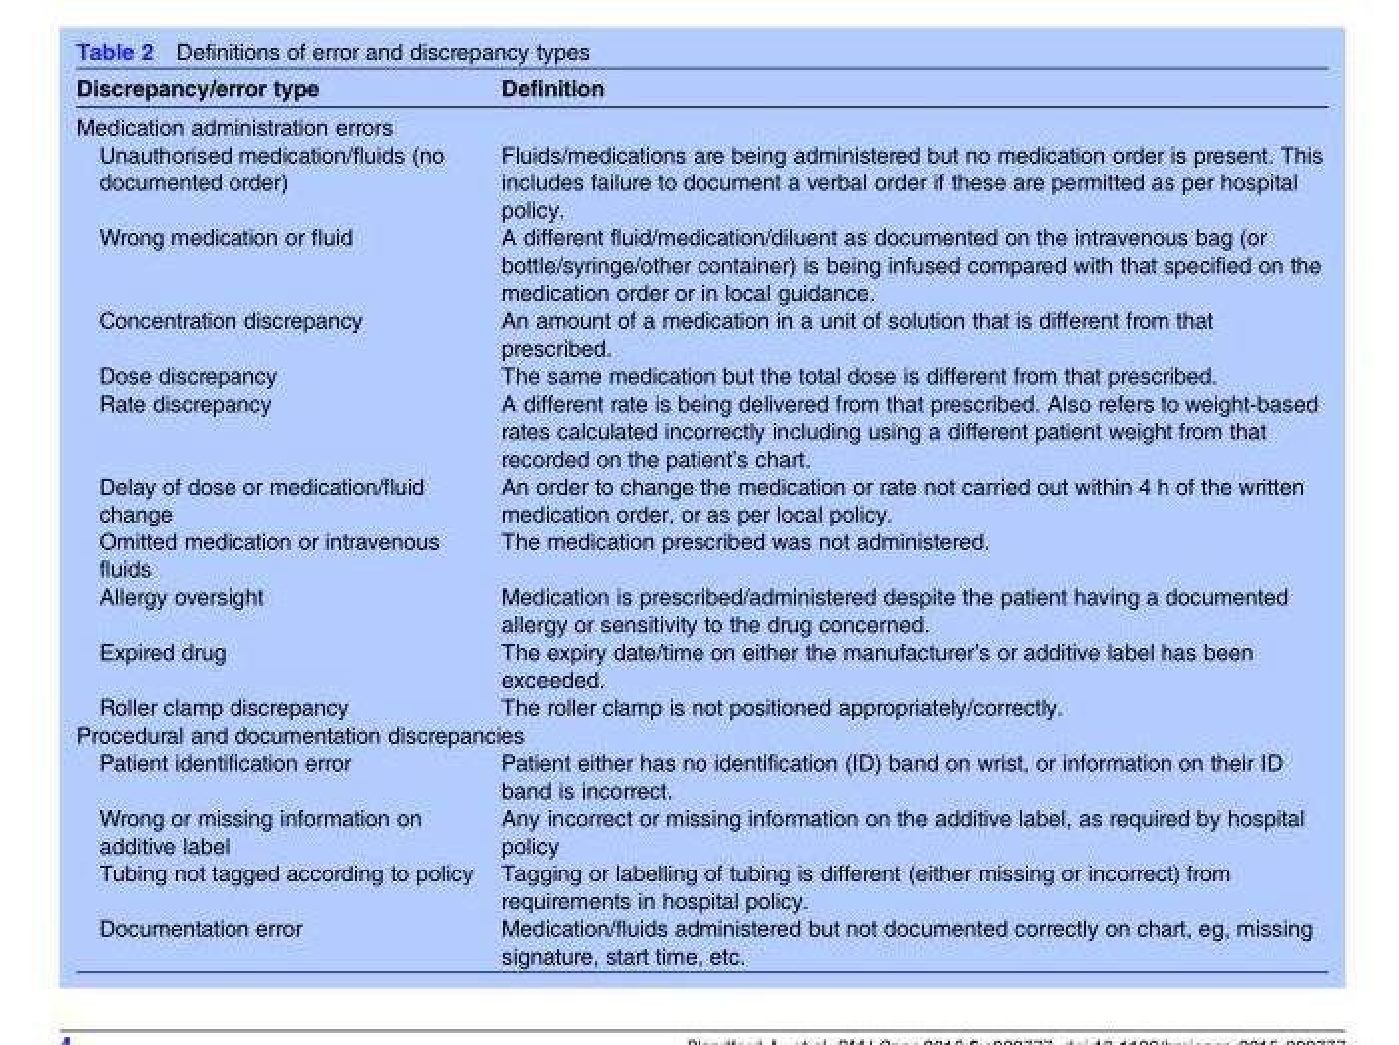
<table><thead><tr><td>Discrepancy/error type</td><td>Definition</td></tr></thead><tbody><tr><td colspan="2">Medication administration errors</td></tr><tr><td>Unauthorised medication/fluids (no documented order)</td><td>Fluids/medications are being administered but no medication order is present. This includes failure to document a verbal order if these are permitted as per hospital policy.</td></tr><tr><td>Wrong medication or fluid</td><td>A different fluid/medication/diluent as documented on the intravenous bag (or bottle/syringe/other container) is being infused compared with that specified on the medication order or in local guidance.</td></tr><tr><td>Concentration discrepancy</td><td>An amount of a medication in a unit of solution that is different from that prescribed.</td></tr><tr><td>Dose discrepancy</td><td>The same medication but the total dose is different from that prescribed.</td></tr><tr><td>Rate discrepancy</td><td>A different rate is being delivered from that prescribed. Also refers to weight-based rates calculated incorrectly including using a different patient weight from that recorded on the patient’s chart.</td></tr><tr><td>Delay of dose or medication/fluid change</td><td>An order to change the medication or rate not carried out within 4 h of the written medication order, or as per local policy.</td></tr><tr><td>Omitted medication or intravenous fluids</td><td>The medication prescribed was not administered.</td></tr><tr><td>Allergy oversight</td><td>Medication is prescribed/administered despite the patient having a documented allergy or sensitivity to the drug concerned.</td></tr><tr><td>Expired drug</td><td>The expiry date/time on either the manufacturer’s or additive label has been exceeded.</td></tr><tr><td>Roller clamp discrepancy</td><td>The roller clamp is not positioned appropriately/correctly.</td></tr><tr><td colspan="2">Procedural and documentation discrepancies</td></tr><tr><td>Patient identification error</td><td>Patient either has no identification (ID) band on wrist, or information on their ID band is incorrect.</td></tr><tr><td>Wrong or missing information on additive label</td><td>Any incorrect or missing information on the additive label, as required by hospital policy</td></tr><tr><td>Tubing not tagged according to policy</td><td>Tagging or labelling of tubing is different (either missing or incorrect) from requirements in hospital policy.</td></tr><tr><td>Documentation error</td><td>Medication/fluids administered but not documented correctly on chart, eg, missing signature, start time, etc.</td></tr></tbody></table>